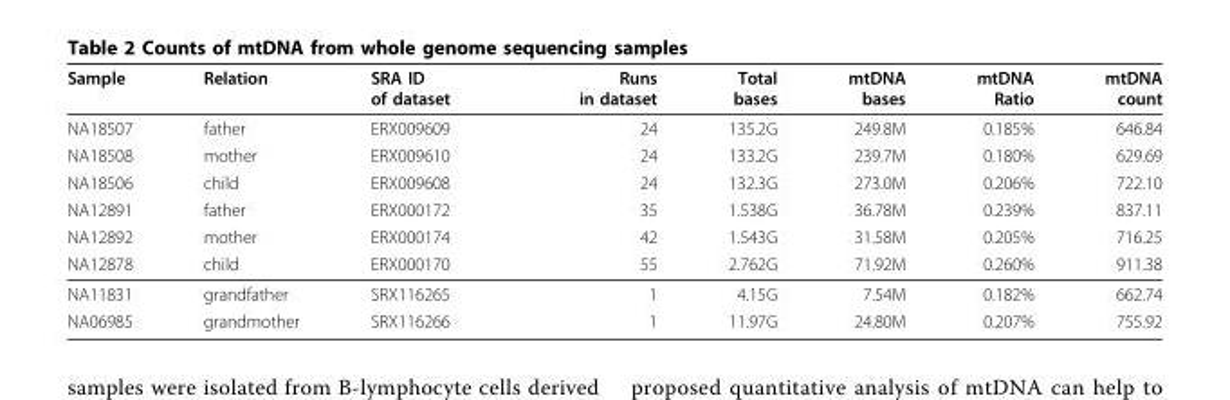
<table><thead><tr><td>Sample</td><td>Relation</td><td>SRA ID of dataset</td><td>Runs in dataset</td><td>Total bases</td><td>mtDNA bases</td><td>mtDNA Ratio</td><td>mtDNA count</td></tr></thead><tbody><tr><td>NA18507</td><td>father</td><td>ERX009609</td><td>24</td><td>135.2G</td><td>249.8M</td><td>0.185%</td><td>646.84</td></tr><tr><td>NA18508</td><td>mother</td><td>ERX009610</td><td>24</td><td>133.2G</td><td>239.7M</td><td>0.180%</td><td>629.69</td></tr><tr><td>NA18506</td><td>child</td><td>ERX009608</td><td>24</td><td>132.3G</td><td>273.0M</td><td>0.206%</td><td>722.10</td></tr><tr><td>NA12891</td><td>father</td><td>ERX000172</td><td>35</td><td>1.538G</td><td>36.78M</td><td>0.239%</td><td>837.11</td></tr><tr><td>NA12892</td><td>mother</td><td>ERX000174</td><td>42</td><td>1.543G</td><td>31.58M</td><td>0.205%</td><td>716.25</td></tr><tr><td>NA12878</td><td>child</td><td>ERX000170</td><td>55</td><td>2.762G</td><td>71.92M</td><td>0.260%</td><td>911.38</td></tr><tr><td>NA11831</td><td>grandfather</td><td>SRX116265</td><td>1</td><td>4.15G</td><td>7.54M</td><td>0.182%</td><td>662.74</td></tr><tr><td>NA06985</td><td>grandmother</td><td>SRX116266</td><td>1</td><td>11.97G</td><td>24.80M</td><td>0.207%</td><td>755.92</td></tr></tbody></table>